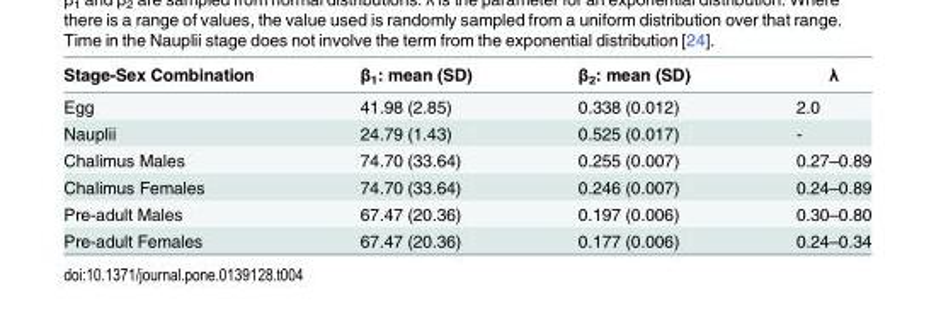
<table><thead><tr><td>Stage-Sex Combination</td><td>β<sub>1</sub>: mean (SD)</td><td>β<sub>2</sub>: mean (SD)</td><td>λ</td></tr></thead><tbody><tr><td>Egg</td><td>41.98 (2.85)</td><td>0.338 (0.012)</td><td>2.0</td></tr><tr><td>Nauplii</td><td>24.79 (1.43)</td><td>0.525 (0.017)</td><td>-</td></tr><tr><td>Chalimus Males</td><td>74.70 (33.64)</td><td>0.255 (0.007)</td><td>0.27–0.89</td></tr><tr><td>Chalimus Females</td><td>74.70 (33.64)</td><td>0.246 (0.007)</td><td>0.24–0.89</td></tr><tr><td>Pre-adult Males</td><td>67.47 (20.36)</td><td>0.197 (0.006)</td><td>0.30–0.80</td></tr><tr><td>Pre-adult Females</td><td>67.47 (20.36)</td><td>0.177 (0.006)</td><td>0.24–0.34</td></tr></tbody></table>